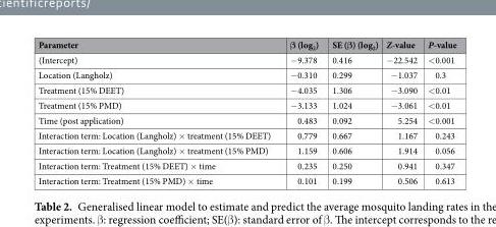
<table><thead><tr><td>Parameter</td><td>β (log<sub>2</sub>)</td><td>SE (β) (log<sub>2</sub>)</td><td>Z-value</td><td>P-value</td></tr></thead><tbody><tr><td>(Intercept)</td><td>−9.378</td><td>0.416</td><td>−22.542</td><td>&lt;0.001</td></tr><tr><td>Location (Langholz)</td><td>−0.310</td><td>0.299</td><td>−1.037</td><td>0.3</td></tr><tr><td>Treatment (15% DEET)</td><td>−4.035</td><td>1.306</td><td>−3.090</td><td>&lt;0.01</td></tr><tr><td>Treatment (15% PMD)</td><td>−3.133</td><td>1.024</td><td>−3.061</td><td>&lt;0.01</td></tr><tr><td>Time (post application)</td><td>0.483</td><td>0.092</td><td>5.254</td><td>&lt;0.001</td></tr><tr><td>Interaction term: Location (Langholz) × treatment (15% DEET)</td><td>0.779</td><td>0.667</td><td>1.167</td><td>0.243</td></tr><tr><td>Interaction term: Location (Langholz) × treatment (15% PMD)</td><td>1.159</td><td>0.606</td><td>1.914</td><td>0.056</td></tr><tr><td>Interaction term: Treatment (15% DEET) × time</td><td>0.235</td><td>0.250</td><td>0.941</td><td>0.347</td></tr><tr><td>Interaction term: Treatment (15% PMD) × time</td><td>0.101</td><td>0.199</td><td>0.506</td><td>0.613</td></tr></tbody></table>